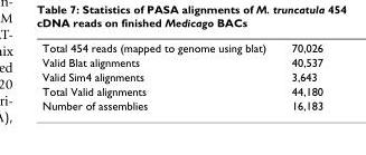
<table><tbody><tr><td>Total 454 reads (mapped to genome using blat)</td><td>70,026</td></tr><tr><td>Valid Blat alignments</td><td>40,537</td></tr><tr><td>Valid Sim4 alignments</td><td>3,643</td></tr><tr><td>Total Valid alignments</td><td>44,180</td></tr><tr><td>Number of assemblies</td><td>16,183</td></tr></tbody></table>